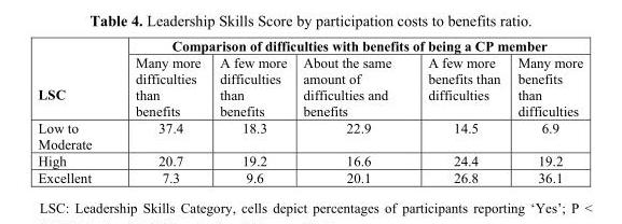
<table><thead><tr><td rowspan="2">LSC</td><td colspan="5">Comparison of difficulties with benefits of being a CP member</td></tr><tr><td>Many more difficulties than benefits</td><td>A few more difficulties than benefits</td><td>About the same amount of difficulties and benefits</td><td>A few more benefits than difficulties</td><td>Many more benefits than difficulties</td></tr></thead><tbody><tr><td>Low to Moderate</td><td>37.4</td><td>18.3</td><td>22.9</td><td>14.5</td><td>6.9</td></tr><tr><td>High</td><td>20.7</td><td>19.2</td><td>16.6</td><td>24.4</td><td>19.2</td></tr><tr><td>Excellent</td><td>7.3</td><td>9.6</td><td>20.1</td><td>26.8</td><td>36.1</td></tr></tbody></table>